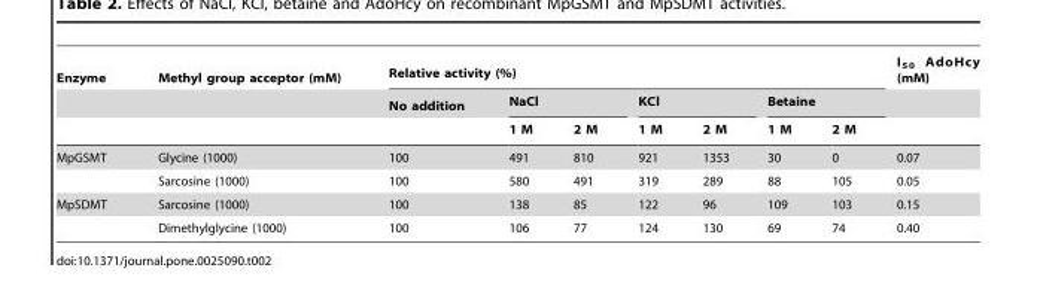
<table><thead><tr><td rowspan="3">Enzyme</td><td rowspan="3">Methyl group acceptor (mM)</td><td colspan="7">Relative activity (%)</td><td rowspan="3">I<sub>50</sub> AdoHcy (mM)</td></tr><tr><td rowspan="2">No addition</td><td colspan="2">NaCl</td><td colspan="2">KCl</td><td colspan="2">Betaine</td></tr><tr><td>1 M</td><td>2 M</td><td>1 M</td><td>2 M</td><td>1 M</td><td>2 M</td></tr></thead><tbody><tr><td rowspan="2">MpGSMT</td><td>Glycine (1000)</td><td>100</td><td>491</td><td>810</td><td>921</td><td>1353</td><td>30</td><td>0</td><td>0.07</td></tr><tr><td>Sarcosine (1000)</td><td>100</td><td>580</td><td>491</td><td>319</td><td>289</td><td>88</td><td>105</td><td>0.05</td></tr><tr><td rowspan="2">MpSDMT</td><td>Sarcosine (1000)</td><td>100</td><td>138</td><td>85</td><td>122</td><td>96</td><td>109</td><td>103</td><td>0.15</td></tr><tr><td>Dimethylglycine (1000)</td><td>100</td><td>106</td><td>77</td><td>124</td><td>130</td><td>69</td><td>74</td><td>0.40</td></tr></tbody></table>